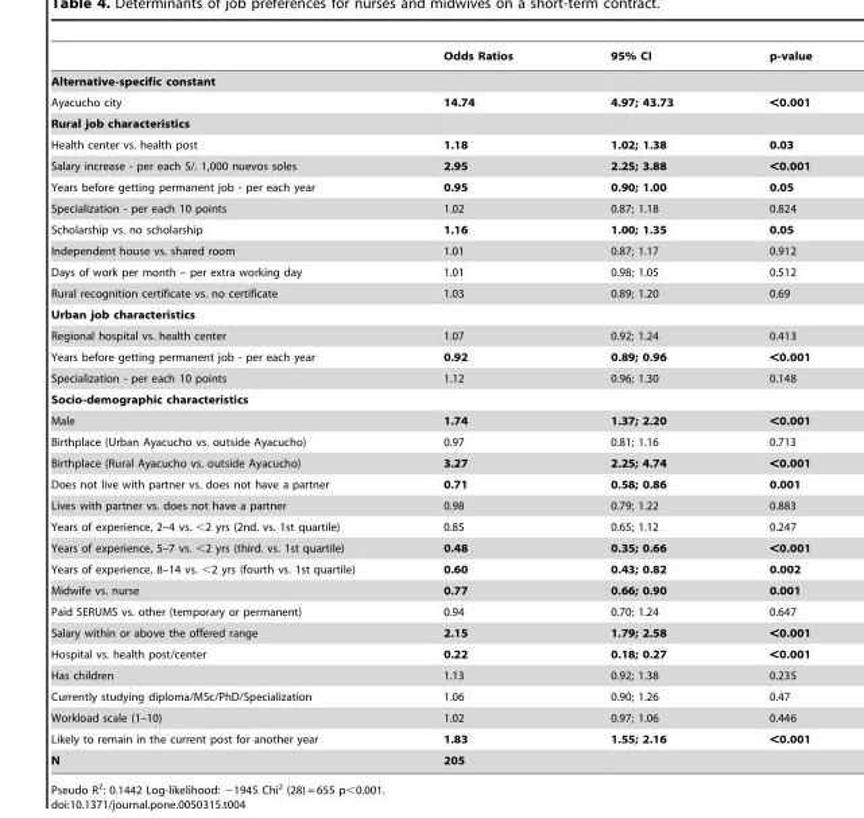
<table><thead><tr><td></td><td>Odds Ratios</td><td>95% CI</td><td>p-value</td></tr></thead><tbody><tr><td colspan="4">Alternative-specific constant</td></tr><tr><td>Ayacucho city</td><td>14.74</td><td>4.97; 43.73</td><td>&lt;0.001</td></tr><tr><td colspan="4">Rural job characteristics</td></tr><tr><td>Health center vs. health post</td><td>1.18</td><td>1.02; 1.38</td><td>0.03</td></tr><tr><td>Salary increase - per each S/. 1,000 nuevos soles</td><td>2.95</td><td>2.25; 3.88</td><td>&lt;0.001</td></tr><tr><td>Years before getting permanent job - per each year</td><td>0.95</td><td>0.90; 1.00</td><td>0.05</td></tr><tr><td>Specialization - per each 10 points</td><td>1.02</td><td>0.87; 1.18</td><td>0.824</td></tr><tr><td>Scholarship vs. no scholarship</td><td>1.16</td><td>1.00; 1.35</td><td>0.05</td></tr><tr><td>Independent house vs. shared room</td><td>1.01</td><td>0.87; 1.17</td><td>0.912</td></tr><tr><td>Days of work per month – per extra working day</td><td>1.01</td><td>0.98; 1.05</td><td>0.512</td></tr><tr><td>Rural recognition certificate vs. no certificate</td><td>1.03</td><td>0.89; 1.20</td><td>0.69</td></tr><tr><td colspan="4">Urban job characteristics</td></tr><tr><td>Regional hospital vs. health center</td><td>1.07</td><td>0.92; 1.24</td><td>0.413</td></tr><tr><td>Years before getting permanent job - per each year</td><td>0.92</td><td>0.89; 0.96</td><td>&lt;0.001</td></tr><tr><td>Specialization - per each 10 points</td><td>1.12</td><td>0.96; 1.30</td><td>0.148</td></tr><tr><td colspan="4">Socio-demographic characteristics</td></tr><tr><td>Male</td><td>1.74</td><td>1.37; 2.20</td><td>&lt;0.001</td></tr><tr><td>Birthplace (Urban Ayacucho vs. outside Ayacucho)</td><td>0.97</td><td>0.81; 1.16</td><td>0.713</td></tr><tr><td>Birthplace (Rural Ayacucho vs. outside Ayacucho)</td><td>3.27</td><td>2.25; 4.74</td><td>&lt;0.001</td></tr><tr><td>Does not live with partner vs. does not have a partner</td><td>0.71</td><td>0.58; 0.86</td><td>0.001</td></tr><tr><td>Lives with partner vs. does not have a partner</td><td>0.98</td><td>0.79; 1.22</td><td>0.883</td></tr><tr><td>Years of experience, 2–4 vs. &lt;2 yrs (2nd. vs. 1st quartile)</td><td>0.85</td><td>0.65; 1.12</td><td>0.247</td></tr><tr><td>Years of experience, 5–7 vs. &lt;2 yrs (third. vs. 1st quartile)</td><td>0.48</td><td>0.35; 0.66</td><td>&lt;0.001</td></tr><tr><td>Years of experience, 8–14 vs. &lt;2 yrs (fourth vs. 1st quartile)</td><td>0.60</td><td>0.43; 0.82</td><td>0.002</td></tr><tr><td>Midwife vs. nurse</td><td>0.77</td><td>0.66; 0.90</td><td>0.001</td></tr><tr><td>Paid SERUMS vs. other (temporary or permanent)</td><td>0.94</td><td>0.70; 1.24</td><td>0.647</td></tr><tr><td>Salary within or above the offered range</td><td>2.15</td><td>1.79; 2.58</td><td>&lt;0.001</td></tr><tr><td>Hospital vs. health post/center</td><td>0.22</td><td>0.18; 0.27</td><td>&lt;0.001</td></tr><tr><td>Has children</td><td>1.13</td><td>0.92; 1.38</td><td>0.235</td></tr><tr><td>Currently studying diploma/MSc/PhD/Specialization</td><td>1.06</td><td>0.90; 1.26</td><td>0.47</td></tr><tr><td>Workload scale (1–10)</td><td>1.02</td><td>0.97; 1.06</td><td>0.446</td></tr><tr><td>Likely to remain in the current post for another year</td><td>1.83</td><td>1.55; 2.16</td><td>&lt;0.001</td></tr><tr><td>N</td><td>205</td><td></td><td></td></tr></tbody></table>